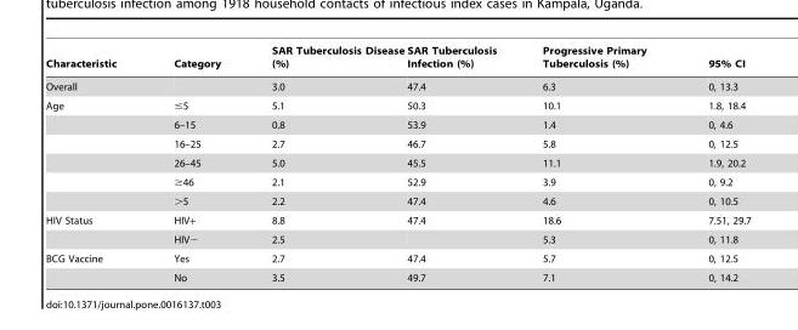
<table><thead><tr><td>Characteristic</td><td>Category</td><td>SAR Tuberculosis Disease (%)</td><td>SAR Tuberculosis Infection (%)</td><td>Progressive Primary Tuberculosis (%)</td><td>95% CI</td></tr></thead><tbody><tr><td>Overall</td><td></td><td>3.0</td><td>47.4</td><td>6.3</td><td>0, 13.3</td></tr><tr><td rowspan="6">Age</td><td>≤5</td><td>5.1</td><td>50.3</td><td>10.1</td><td>1.8, 18.4</td></tr><tr><td>6–15</td><td>0.8</td><td>53.9</td><td>1.4</td><td>0, 4.6</td></tr><tr><td>16–25</td><td>2.7</td><td>46.7</td><td>5.8</td><td>0, 12.5</td></tr><tr><td>26–45</td><td>5.0</td><td>45.5</td><td>11.1</td><td>1.9, 20.2</td></tr><tr><td>≥46</td><td>2.1</td><td>52.9</td><td>3.9</td><td>0, 9.2</td></tr><tr><td>&gt;5</td><td>2.2</td><td>47.4</td><td>4.6</td><td>0, 10.5</td></tr><tr><td rowspan="2">HIV Status</td><td>HIV+</td><td>8.8</td><td>47.4</td><td>18.6</td><td>7.51, 29.7</td></tr><tr><td>HIV−</td><td>2.5</td><td></td><td>5.3</td><td>0, 11.8</td></tr><tr><td rowspan="2">BCG Vaccine</td><td>Yes</td><td>2.7</td><td>47.4</td><td>5.7</td><td>0, 12.5</td></tr><tr><td>No</td><td>3.5</td><td>49.7</td><td>7.1</td><td>0, 14.2</td></tr></tbody></table>